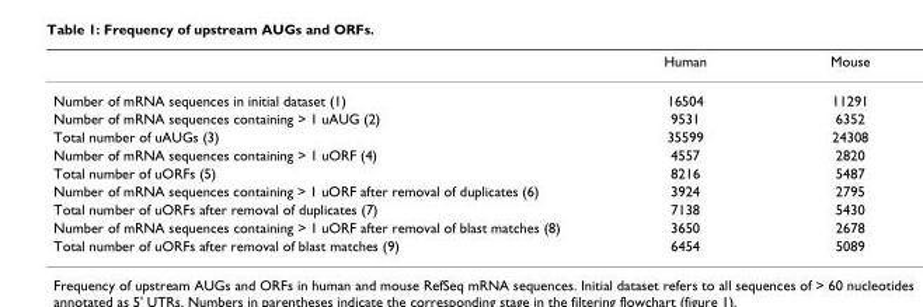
<table><thead><tr><td></td><td>Human</td><td>Mouse</td></tr></thead><tbody><tr><td>Number of mRNA sequences in initial dataset (1)</td><td>16504</td><td>11291</td></tr><tr><td>Number of mRNA sequences containing &gt; 1 uAUG (2)</td><td>9531</td><td>6352</td></tr><tr><td>Total number of uAUGs (3)</td><td>35599</td><td>24308</td></tr><tr><td>Number of mRNA sequences containing &gt; 1 uORF (4)</td><td>4557</td><td>2820</td></tr><tr><td>Total number of uORFs (5)</td><td>8216</td><td>5487</td></tr><tr><td>Number of mRNA sequences containing &gt; 1 uORF after removal of duplicates (6)</td><td>3924</td><td>2795</td></tr><tr><td>Total number of uORFs after removal of duplicates (7)</td><td>7138</td><td>5430</td></tr><tr><td>Number of mRNA sequences containing &gt; 1 uORF after removal of blast matches (8)</td><td>3650</td><td>2678</td></tr><tr><td>Total number of uORFs after removal of blast matches (9)</td><td>6454</td><td>5089</td></tr></tbody></table>